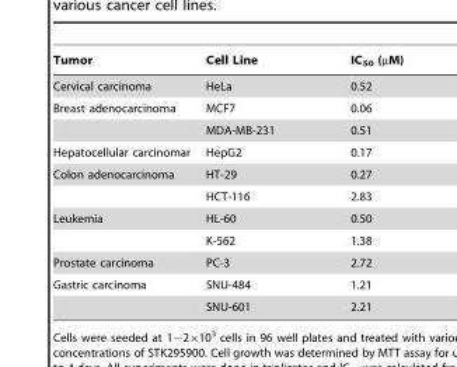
<table><thead><tr><td>Tumor</td><td>Cell Line</td><td>IC<sub>50</sub> (µM)</td></tr></thead><tbody><tr><td>Cervical carcinoma</td><td>HeLa</td><td>0.52</td></tr><tr><td rowspan="2">Breast adenocarcinoma</td><td>MCF7</td><td>0.06</td></tr><tr><td>MDA-MB-231</td><td>0.51</td></tr><tr><td>Hepatocellular carcinomar</td><td>HepG2</td><td>0.17</td></tr><tr><td rowspan="2">Colon adenocarcinoma</td><td>HT-29</td><td>0.27</td></tr><tr><td>HCT-116</td><td>2.83</td></tr><tr><td rowspan="2">Leukemia</td><td>HL-60</td><td>0.50</td></tr><tr><td>K-562</td><td>1.38</td></tr><tr><td>Prostate carcinoma</td><td>PC-3</td><td>2.72</td></tr><tr><td rowspan="2">Gastric carcinoma</td><td>SNU-484</td><td>1.21</td></tr><tr><td>SNU-601</td><td>2.21</td></tr></tbody></table>